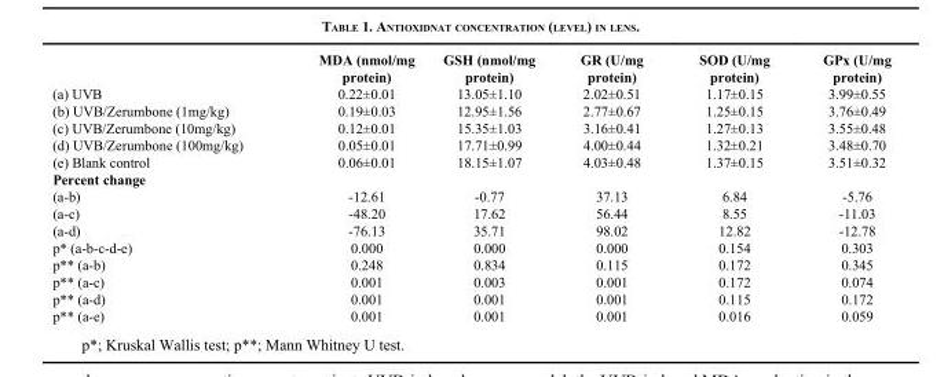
<table><thead><tr><td></td><td>MDA (nmol/mg protein)</td><td>GSH (nmol/mg protein)</td><td>GR (U/mg protein)</td><td>SOD (U/mg protein)</td><td>GPx (U/mg protein)</td></tr></thead><tbody><tr><td>(a) UVB</td><td>0.22±0.01</td><td>13.05±1.10</td><td>2.02±0.51</td><td>1.17±0.15</td><td>3.99±0.55</td></tr><tr><td>(b) UVB/Zerumbone (1mg/kg)</td><td>0.19±0.03</td><td>12.95±1.56</td><td>2.77±0.67</td><td>1.25±0.15</td><td>3.76±0.49</td></tr><tr><td>(c) UVB/Zerumbone (10mg/kg)</td><td>0.12±0.01</td><td>15.35±1.03</td><td>3.16±0.41</td><td>1.27±0.13</td><td>3.55±0.48</td></tr><tr><td>(d) UVB/Zerumbone (100mg/kg)</td><td>0.05±0.01</td><td>17.71±0.99</td><td>4.00±0.44</td><td>1.32±0.21</td><td>3.48±0.70</td></tr><tr><td>(e) Blank control</td><td>0.06±0.01</td><td>18.15±1.07</td><td>4.03±0.48</td><td>1.37±0.15</td><td>3.51±0.32</td></tr><tr><td colspan="6">Percent change</td></tr><tr><td>(a-b)</td><td>-12.61</td><td>-0.77</td><td>37.13</td><td>6.84</td><td>-5.76</td></tr><tr><td>(a-c)</td><td>-48.20</td><td>17.62</td><td>56.44</td><td>8.55</td><td>-11.03</td></tr><tr><td>(a-d)</td><td>-76.13</td><td>35.71</td><td>98.02</td><td>12.82</td><td>-12.78</td></tr><tr><td>p* (a-b-c-d-e)</td><td>0.000</td><td>0.000</td><td>0.000</td><td>0.154</td><td>0.303</td></tr><tr><td>p** (a-b)</td><td>0.248</td><td>0.834</td><td>0.115</td><td>0.172</td><td>0.345</td></tr><tr><td>p** (a-c)</td><td>0.001</td><td>0.003</td><td>0.001</td><td>0.172</td><td>0.074</td></tr><tr><td>p** (a-d)</td><td>0.001</td><td>0.001</td><td>0.001</td><td>0.115</td><td>0.172</td></tr><tr><td>p** (a-e)</td><td>0.001</td><td>0.001</td><td>0.001</td><td>0.016</td><td>0.059</td></tr></tbody></table>